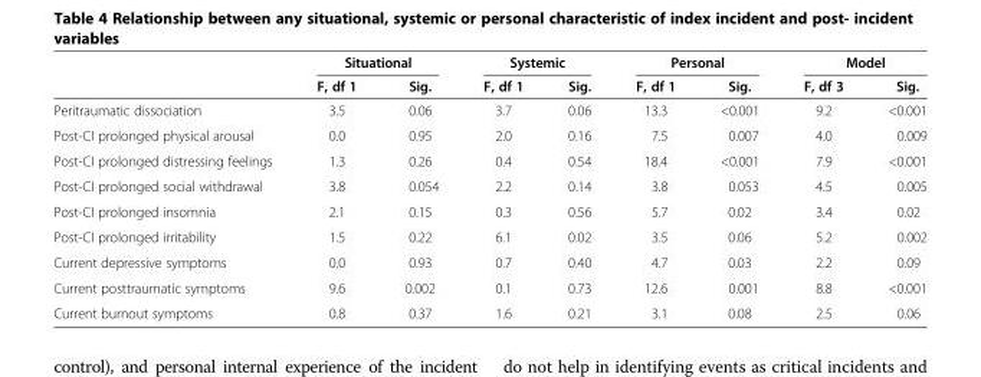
<table><thead><tr><td rowspan="2"></td><td colspan="2">Situational</td><td colspan="2">Systemic</td><td colspan="2">Personal</td><td colspan="2">Model</td></tr><tr><td>F, df 1</td><td>Sig.</td><td>F, df 1</td><td>Sig.</td><td>F, df 1</td><td>Sig.</td><td>F, df 3</td><td>Sig.</td></tr></thead><tbody><tr><td>Peritraumatic dissociation</td><td>3.5</td><td>0.06</td><td>3.7</td><td>0.06</td><td>13.3</td><td>&lt;0.001</td><td>9.2</td><td>&lt;0.001</td></tr><tr><td>Post-CI prolonged physical arousal</td><td>0.0</td><td>0.95</td><td>2.0</td><td>0.16</td><td>7.5</td><td>0.007</td><td>4.0</td><td>0.009</td></tr><tr><td>Post-CI prolonged distressing feelings</td><td>1.3</td><td>0.26</td><td>0.4</td><td>0.54</td><td>18.4</td><td>&lt;0.001</td><td>7.9</td><td>&lt;0.001</td></tr><tr><td>Post-CI prolonged social withdrawal</td><td>3.8</td><td>0.054</td><td>2.2</td><td>0.14</td><td>3.8</td><td>0.053</td><td>4.5</td><td>0.005</td></tr><tr><td>Post-CI prolonged insomnia</td><td>2.1</td><td>0.15</td><td>0.3</td><td>0.56</td><td>5.7</td><td>0.02</td><td>3.4</td><td>0.02</td></tr><tr><td>Post-CI prolonged irritability</td><td>1.5</td><td>0.22</td><td>6.1</td><td>0.02</td><td>3.5</td><td>0.06</td><td>5.2</td><td>0.002</td></tr><tr><td>Current depressive symptoms</td><td>0.0</td><td>0.93</td><td>0.7</td><td>0.40</td><td>4.7</td><td>0.03</td><td>2.2</td><td>0.09</td></tr><tr><td>Current posttraumatic symptoms</td><td>9.6</td><td>0.002</td><td>0.1</td><td>0.73</td><td>12.6</td><td>0.001</td><td>8.8</td><td>&lt;0.001</td></tr><tr><td>Current burnout symptoms</td><td>0.8</td><td>0.37</td><td>1.6</td><td>0.21</td><td>3.1</td><td>0.08</td><td>2.5</td><td>0.06</td></tr></tbody></table>